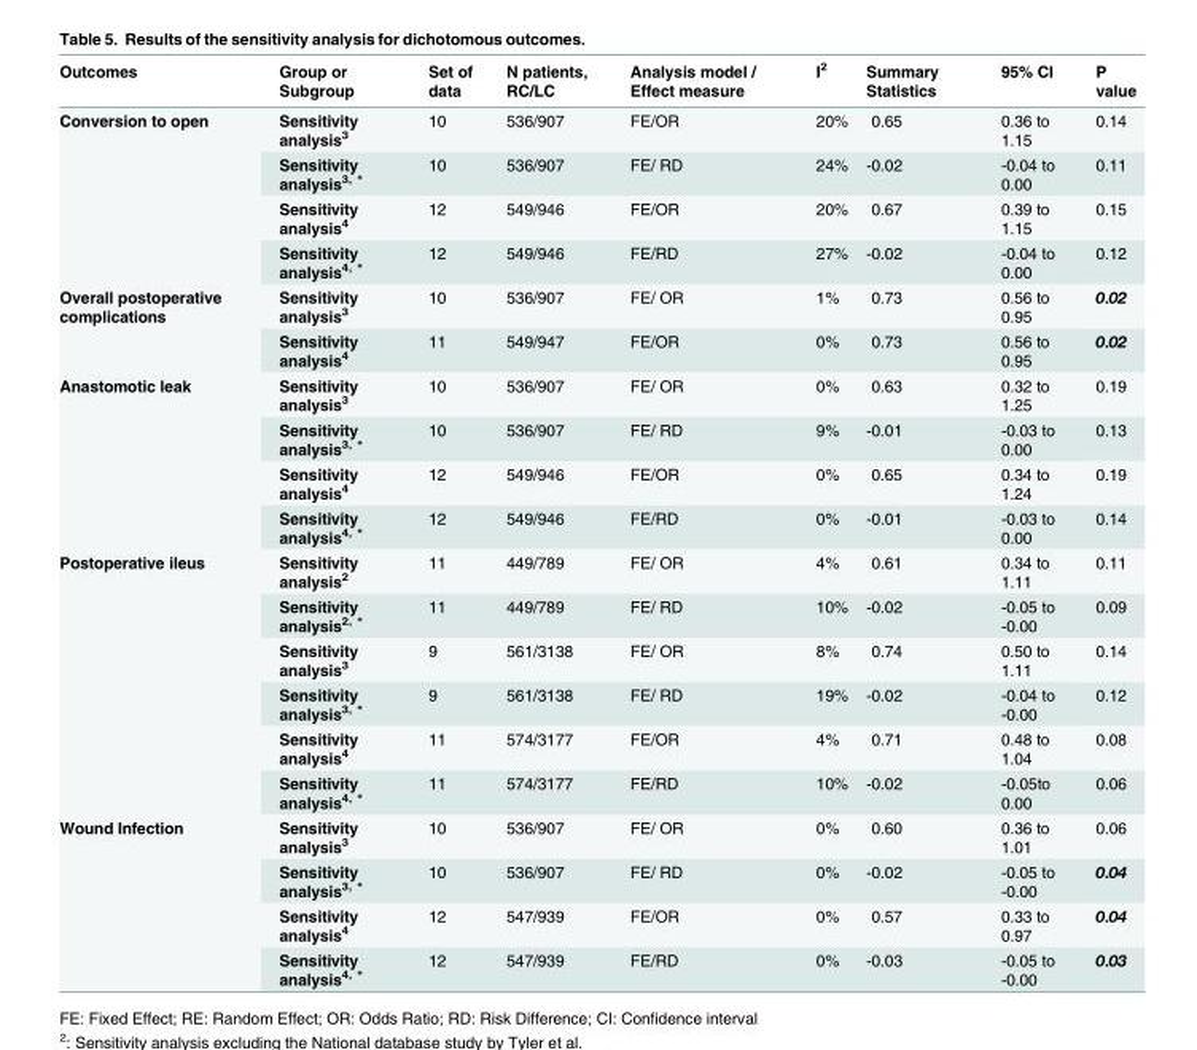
<table><thead><tr><td>Outcomes</td><td>Group or Subgroup</td><td>Set of data</td><td>N patients, RC/LC</td><td>Analysis model / Effect measure</td><td>I<sup>2</sup></td><td>Summary Statistics</td><td>95% CI</td><td>P value</td></tr></thead><tbody><tr><td rowspan="4">Conversion to open</td><td>Sensitivity analysis<sup>3</sup></td><td>10</td><td>536/907</td><td>FE/OR</td><td>20%</td><td>0.65</td><td>0.36 to 1.15</td><td>0.14</td></tr><tr><td>Sensitivity analysis<sup>3, *</sup></td><td>10</td><td>536/907</td><td>FE/ RD</td><td>24%</td><td>-0.02</td><td>-0.04 to 0.00</td><td>0.11</td></tr><tr><td>Sensitivity analysis<sup>4</sup></td><td>12</td><td>549/946</td><td>FE/OR</td><td>20%</td><td>0.67</td><td>0.39 to 1.15</td><td>0.15</td></tr><tr><td>Sensitivity analysis<sup>4, *</sup></td><td>12</td><td>549/946</td><td>FE/RD</td><td>27%</td><td>-0.02</td><td>-0.04 to 0.00</td><td>0.12</td></tr><tr><td rowspan="2">Overall postoperative complications</td><td>Sensitivity analysis<sup>3</sup></td><td>10</td><td>536/907</td><td>FE/ OR</td><td>1%</td><td>0.73</td><td>0.56 to 0.95</td><td>0.02</td></tr><tr><td>Sensitivity analysis<sup>4</sup></td><td>11</td><td>549/947</td><td>FE/OR</td><td>0%</td><td>0.73</td><td>0.56 to 0.95</td><td>0.02</td></tr><tr><td rowspan="4">Anastomotic leak</td><td>Sensitivity analysis<sup>3</sup></td><td>10</td><td>536/907</td><td>FE/ OR</td><td>0%</td><td>0.63</td><td>0.32 to 1.25</td><td>0.19</td></tr><tr><td>Sensitivity analysis<sup>3, *</sup></td><td>10</td><td>536/907</td><td>FE/ RD</td><td>9%</td><td>-0.01</td><td>-0.03 to 0.00</td><td>0.13</td></tr><tr><td>Sensitivity analysis<sup>4</sup></td><td>12</td><td>549/946</td><td>FE/OR</td><td>0%</td><td>0.65</td><td>0.34 to 1.24</td><td>0.19</td></tr><tr><td>Sensitivity analysis<sup>4, *</sup></td><td>12</td><td>549/946</td><td>FE/RD</td><td>0%</td><td>-0.01</td><td>-0.03 to 0.00</td><td>0.14</td></tr><tr><td rowspan="6">Postoperative ileus</td><td>Sensitivity analysis<sup>2</sup></td><td>11</td><td>449/789</td><td>FE/ OR</td><td>4%</td><td>0.61</td><td>0.34 to 1.11</td><td>0.11</td></tr><tr><td>Sensitivity analysis<sup>2, *</sup></td><td>11</td><td>449/789</td><td>FE/ RD</td><td>10%</td><td>-0.02</td><td>-0.05 to -0.00</td><td>0.09</td></tr><tr><td>Sensitivity analysis<sup>3</sup></td><td>9</td><td>561/3138</td><td>FE/ OR</td><td>8%</td><td>0.74</td><td>0.50 to 1.11</td><td>0.14</td></tr><tr><td>Sensitivity analysis<sup>3, *</sup></td><td>9</td><td>561/3138</td><td>FE/ RD</td><td>19%</td><td>-0.02</td><td>-0.04 to -0.00</td><td>0.12</td></tr><tr><td>Sensitivity analysis<sup>4</sup></td><td>11</td><td>574/3177</td><td>FE/OR</td><td>4%</td><td>0.71</td><td>0.48 to 1.04</td><td>0.08</td></tr><tr><td>Sensitivity analysis<sup>4, *</sup></td><td>11</td><td>574/3177</td><td>FE/RD</td><td>10%</td><td>-0.02</td><td>-0.05to 0.00</td><td>0.06</td></tr><tr><td rowspan="4">Wound Infection</td><td>Sensitivity analysis<sup>3</sup></td><td>10</td><td>536/907</td><td>FE/ OR</td><td>0%</td><td>0.60</td><td>0.36 to 1.01</td><td>0.06</td></tr><tr><td>Sensitivity analysis<sup>3, *</sup></td><td>10</td><td>536/907</td><td>FE/ RD</td><td>0%</td><td>-0.02</td><td>-0.05 to -0.00</td><td>0.04</td></tr><tr><td>Sensitivity analysis<sup>4</sup></td><td>12</td><td>547/939</td><td>FE/OR</td><td>0%</td><td>0.57</td><td>0.33 to 0.97</td><td>0.04</td></tr><tr><td>Sensitivity analysis<sup>4, *</sup></td><td>12</td><td>547/939</td><td>FE/RD</td><td>0%</td><td>-0.03</td><td>-0.05 to -0.00</td><td>0.03</td></tr></tbody></table>